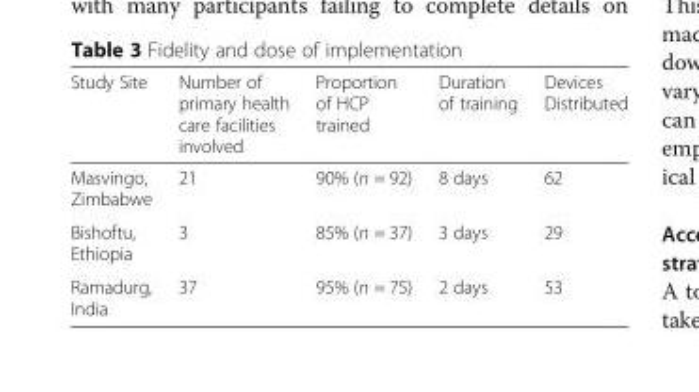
<table><thead><tr><td>Study Site</td><td>Number of primary health care facilities involved</td><td>Proportion of HCP trained</td><td>Duration of training</td><td>Devices Distributed</td></tr></thead><tbody><tr><td>Masvingo, Zimbabwe</td><td>21</td><td>90% (n = 92)</td><td>8 days</td><td>62</td></tr><tr><td>Bishoftu, Ethiopia</td><td>3</td><td>85% (n = 37)</td><td>3 days</td><td>29</td></tr><tr><td>Ramadurg, India</td><td>37</td><td>95% (n = 75)</td><td>2 days</td><td>53</td></tr></tbody></table>